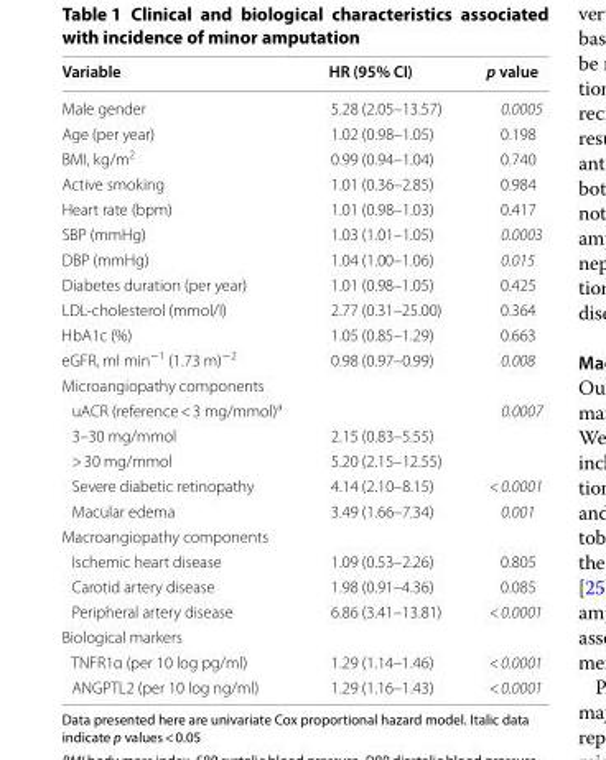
<table><thead><tr><td>Variable</td><td>HR (95% CI)</td><td>p value</td></tr></thead><tbody><tr><td>Male gender</td><td>5.28 (2.05–13.57)</td><td>0.0005</td></tr><tr><td>Age (per year)</td><td>1.02 (0.98–1.05)</td><td>0.198</td></tr><tr><td>BMI, kg/m<sup>2</sup></td><td>0.99 (0.94–1.04)</td><td>0.740</td></tr><tr><td>Active smoking</td><td>1.01 (0.36–2.85)</td><td>0.984</td></tr><tr><td>Heart rate (bpm)</td><td>1.01 (0.98–1.03)</td><td>0.417</td></tr><tr><td>SBP (mmHg)</td><td>1.03 (1.01–1.05)</td><td>0.0003</td></tr><tr><td>DBP (mmHg)</td><td>1.04 (1.00–1.06)</td><td>0.015</td></tr><tr><td>Diabetes duration (per year)</td><td>1.01 (0.98–1.05)</td><td>0.425</td></tr><tr><td>LDL‑cholesterol (mmol/l)</td><td>2.77 (0.31–25.00)</td><td>0.364</td></tr><tr><td>HbA1c (%)</td><td>1.05 (0.85–1.29)</td><td>0.663</td></tr><tr><td>eGFR, ml min<sup>−1</sup> (1.73 m)<sup>−2</sup></td><td>0.98 (0.97–0.99)</td><td>0.008</td></tr><tr><td colspan="3">Microangiopathy components</td></tr><tr><td>uACR (reference &lt; 3 mg/mmol)<sup>a</sup></td><td></td><td>0.0007</td></tr><tr><td>3–30 mg/mmol</td><td>2.15 (0.83–5.55)</td><td></td></tr><tr><td>&gt; 30 mg/mmol</td><td>5.20 (2.15–12.55)</td><td></td></tr><tr><td>Severe diabetic retinopathy</td><td>4.14 (2.10–8.15)</td><td>&lt; 0.0001</td></tr><tr><td>Macular edema</td><td>3.49 (1.66–7.34)</td><td>0.001</td></tr><tr><td colspan="3">Macroangiopathy components</td></tr><tr><td>Ischemic heart disease</td><td>1.09 (0.53–2.26)</td><td>0.805</td></tr><tr><td>Carotid artery disease</td><td>1.98 (0.91–4.36)</td><td>0.085</td></tr><tr><td>Peripheral artery disease</td><td>6.86 (3.41–13.81)</td><td>&lt; 0.0001</td></tr><tr><td colspan="3">Biological markers</td></tr><tr><td>TNFR1α (per 10 log pg/ml)</td><td>1.29 (1.14–1.46)</td><td>&lt; 0.0001</td></tr><tr><td>ANGPTL2 (per 10 log ng/ml)</td><td>1.29 (1.16–1.43)</td><td>&lt; 0.0001</td></tr></tbody></table>